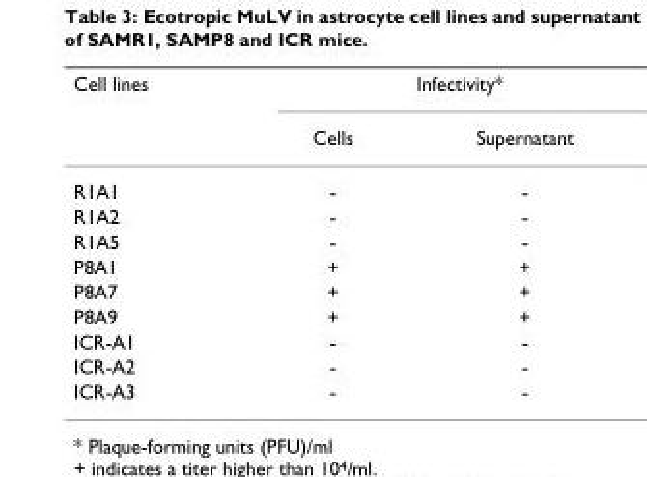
<table><thead><tr><td rowspan="2">Cell lines</td><td colspan="2">Infectivity*</td></tr><tr><td>Cells</td><td>Supernatant</td></tr></thead><tbody><tr><td>R1A1</td><td>-</td><td>-</td></tr><tr><td>R1A2</td><td>-</td><td>-</td></tr><tr><td>R1A5</td><td>-</td><td>-</td></tr><tr><td>P8A1</td><td>+</td><td>+</td></tr><tr><td>P8A7</td><td>+</td><td>+</td></tr><tr><td>P8A9</td><td>+</td><td>+</td></tr><tr><td>ICR-A1</td><td>-</td><td>-</td></tr><tr><td>ICR-A2</td><td>-</td><td>-</td></tr><tr><td>ICR-A3</td><td>-</td><td>-</td></tr></tbody></table>